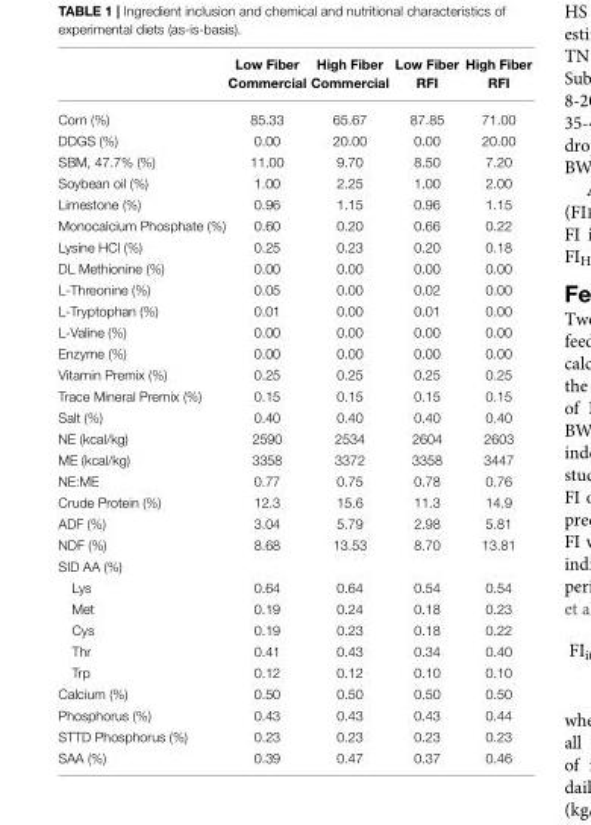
<table><thead><tr><td></td><td>Low Fiber Commercial</td><td>High Fiber Commercial</td><td>Low Fiber RFI</td><td>High Fiber RFI</td></tr></thead><tbody><tr><td>Corn (%)</td><td>85.33</td><td>65.67</td><td>87.85</td><td>71.00</td></tr><tr><td>DDGS (%)</td><td>0.00</td><td>20.00</td><td>0.00</td><td>20.00</td></tr><tr><td>SBM, 47.7% (%)</td><td>11.00</td><td>9.70</td><td>8.50</td><td>7.20</td></tr><tr><td>Soybean oil (%)</td><td>1.00</td><td>2.25</td><td>1.00</td><td>2.00</td></tr><tr><td>Limestone (%)</td><td>0.96</td><td>1.15</td><td>0.96</td><td>1.15</td></tr><tr><td>Monocalcium Phosphate (%)</td><td>0.60</td><td>0.20</td><td>0.66</td><td>0.22</td></tr><tr><td>Lysine HCl (%)</td><td>0.25</td><td>0.23</td><td>0.20</td><td>0.18</td></tr><tr><td>DL Methionine (%)</td><td>0.00</td><td>0.00</td><td>0.00</td><td>0.00</td></tr><tr><td>L-Threonine (%)</td><td>0.05</td><td>0.00</td><td>0.02</td><td>0.00</td></tr><tr><td>L-Tryptophan (%)</td><td>0.01</td><td>0.00</td><td>0.01</td><td>0.00</td></tr><tr><td>L-Valine (%)</td><td>0.00</td><td>0.00</td><td>0.00</td><td>0.00</td></tr><tr><td>Enzyme (%)</td><td>0.00</td><td>0.00</td><td>0.00</td><td>0.00</td></tr><tr><td>Vitamin Premix (%)</td><td>0.25</td><td>0.25</td><td>0.25</td><td>0.25</td></tr><tr><td>Trace Mineral Premix (%)</td><td>0.15</td><td>0.15</td><td>0.15</td><td>0.15</td></tr><tr><td>Salt (%)</td><td>0.40</td><td>0.40</td><td>0.40</td><td>0.40</td></tr><tr><td>NE (kcal/kg)</td><td>2590</td><td>2534</td><td>2604</td><td>2603</td></tr><tr><td>ME (kcal/kg)</td><td>3358</td><td>3372</td><td>3358</td><td>3447</td></tr><tr><td>NE:ME</td><td>0.77</td><td>0.75</td><td>0.78</td><td>0.76</td></tr><tr><td>Crude Protein (%)</td><td>12.3</td><td>15.6</td><td>11.3</td><td>14.9</td></tr><tr><td>ADF (%)</td><td>3.04</td><td>5.79</td><td>2.98</td><td>5.81</td></tr><tr><td>NDF (%)</td><td>8.68</td><td>13.53</td><td>8.70</td><td>13.81</td></tr><tr><td colspan="5">SID AA (%)</td></tr><tr><td>Lys</td><td>0.64</td><td>0.64</td><td>0.54</td><td>0.54</td></tr><tr><td>Met</td><td>0.19</td><td>0.24</td><td>0.18</td><td>0.23</td></tr><tr><td>Cys</td><td>0.19</td><td>0.23</td><td>0.18</td><td>0.22</td></tr><tr><td>Thr</td><td>0.41</td><td>0.43</td><td>0.34</td><td>0.40</td></tr><tr><td>Trp</td><td>0.12</td><td>0.12</td><td>0.10</td><td>0.10</td></tr><tr><td>Calcium (%)</td><td>0.50</td><td>0.50</td><td>0.50</td><td>0.50</td></tr><tr><td>Phosphorus (%)</td><td>0.43</td><td>0.43</td><td>0.43</td><td>0.44</td></tr><tr><td>STTD Phosphorus (%)</td><td>0.23</td><td>0.23</td><td>0.23</td><td>0.23</td></tr><tr><td>SAA (%)</td><td>0.39</td><td>0.47</td><td>0.37</td><td>0.46</td></tr></tbody></table>